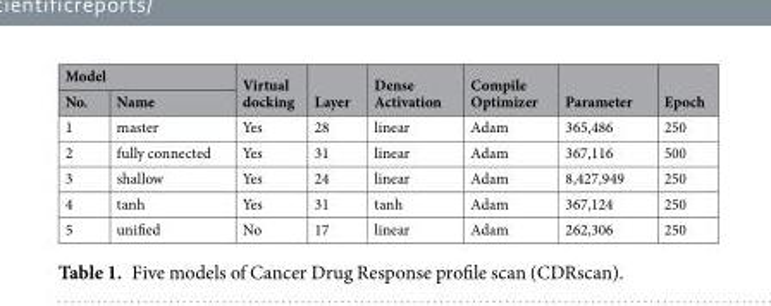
<table><thead><tr><td colspan="2">Model</td><td rowspan="2">Virtual docking</td><td rowspan="2">Layer</td><td rowspan="2">Dense Activation</td><td rowspan="2">Compile Optimizer</td><td rowspan="2">Parameter</td><td rowspan="2">Epoch</td></tr><tr><td>No.</td><td>Name</td></tr></thead><tbody><tr><td>1</td><td>master</td><td>Yes</td><td>28</td><td>linear</td><td>Adam</td><td>365,486</td><td>250</td></tr><tr><td>2</td><td>fully connected</td><td>Yes</td><td>31</td><td>linear</td><td>Adam</td><td>367,116</td><td>500</td></tr><tr><td>3</td><td>shallow</td><td>Yes</td><td>24</td><td>linear</td><td>Adam</td><td>8,427,949</td><td>250</td></tr><tr><td>4</td><td>tanh</td><td>Yes</td><td>31</td><td>tanh</td><td>Adam</td><td>367,124</td><td>250</td></tr><tr><td>5</td><td>unified</td><td>No</td><td>17</td><td>linear</td><td>Adam</td><td>262,306</td><td>250</td></tr></tbody></table>